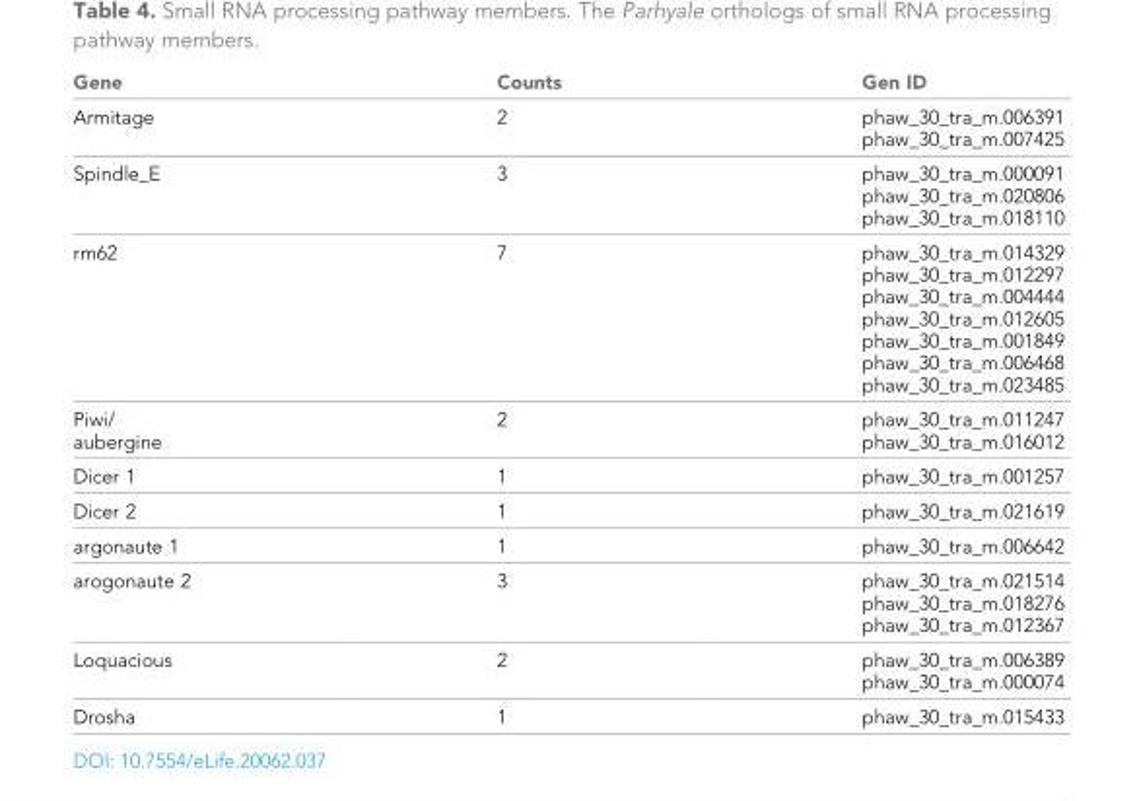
<table><thead><tr><td>Gene</td><td>Counts</td><td>Gen ID</td></tr></thead><tbody><tr><td>Armitage</td><td>2</td><td>phaw_30_tra_m.006391 phaw_30_tra_m.007425</td></tr><tr><td>Spindle_E</td><td>3</td><td>phaw_30_tra_m.000091 phaw_30_tra_m.020806 phaw_30_tra_m.018110</td></tr><tr><td>rm62</td><td>7</td><td>phaw_30_tra_m.014329 phaw_30_tra_m.012297 phaw_30_tra_m.004444 phaw_30_tra_m.012605 phaw_30_tra_m.001849 phaw_30_tra_m.006468 phaw_30_tra_m.023485</td></tr><tr><td>Piwi/ aubergine</td><td>2</td><td>phaw_30_tra_m.011247 phaw_30_tra_m.016012</td></tr><tr><td>Dicer 1</td><td>1</td><td>phaw_30_tra_m.001257</td></tr><tr><td>Dicer 2</td><td>1</td><td>phaw_30_tra_m.021619</td></tr><tr><td>argonaute 1</td><td>1</td><td>phaw_30_tra_m.006642</td></tr><tr><td>arogonaute 2</td><td>3</td><td>phaw_30_tra_m.021514 phaw_30_tra_m.018276 phaw_30_tra_m.012367</td></tr><tr><td>Loquacious</td><td>2</td><td>phaw_30_tra_m.006389 phaw_30_tra_m.000074</td></tr><tr><td>Drosha</td><td>1</td><td>phaw_30_tra_m.015433</td></tr></tbody></table>